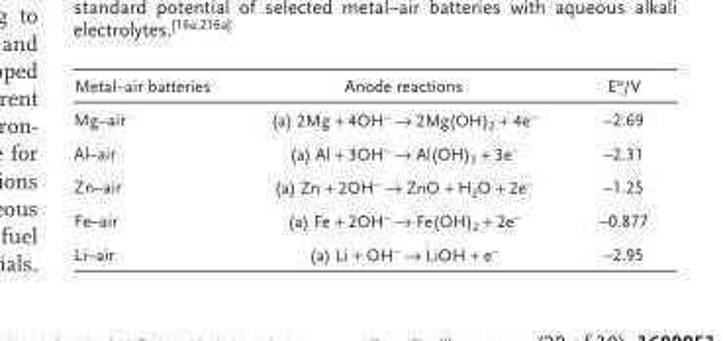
<table><thead><tr><td>Metal–air batteries</td><td>Anode reactions</td><td>E <sup>o</sup> /V</td></tr></thead><tbody><tr><td>Mg–air</td><td>(a) 2Mg + 4OH <sup>–</sup> → 2Mg(OH) <sub>2</sub> + 4e <sup>–</sup></td><td>–2.69</td></tr><tr><td>Al–air</td><td>(a) Al + 3OH <sup>–</sup> → Al(OH) <sub>3</sub> + 3e <sup>–</sup></td><td>–2.31</td></tr><tr><td>Zn–air</td><td>(a) Zn + 2OH <sup>–</sup> → ZnO + H <sub>2</sub> O + 2e <sup>−</sup></td><td>–1.25</td></tr><tr><td>Fe–air</td><td>(a) Fe + 2OH <sup>–</sup> → Fe(OH) <sub>2</sub> + 2e <sup>–</sup></td><td>–0.877</td></tr><tr><td>Li–air</td><td>(a) Li + OH <sup>–</sup> → LiOH + e <sup>–</sup></td><td>–2.95</td></tr></tbody></table>